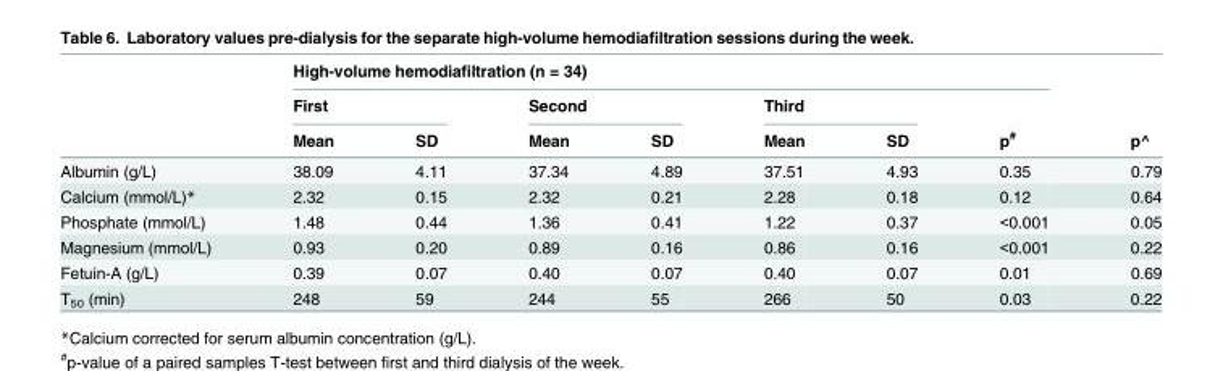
<table><thead><tr><td rowspan="3"></td><td colspan="7">High-volume hemodiafiltration (n = 34)</td><td rowspan="3">p^</td></tr><tr><td colspan="2">First</td><td colspan="2">Second</td><td colspan="2">Third</td><td rowspan="2">p<sup>#</sup></td></tr><tr><td>Mean</td><td>SD</td><td>Mean</td><td>SD</td><td>Mean</td><td>SD</td></tr></thead><tbody><tr><td>Albumin (g/L)</td><td>38.09</td><td>4.11</td><td>37.34</td><td>4.89</td><td>37.51</td><td>4.93</td><td>0.35</td><td>0.79</td></tr><tr><td>Calcium (mmol/L)*</td><td>2.32</td><td>0.15</td><td>2.32</td><td>0.21</td><td>2.28</td><td>0.18</td><td>0.12</td><td>0.64</td></tr><tr><td>Phosphate (mmol/L)</td><td>1.48</td><td>0.44</td><td>1.36</td><td>0.41</td><td>1.22</td><td>0.37</td><td>&lt;0.001</td><td>0.05</td></tr><tr><td>Magnesium (mmol/L)</td><td>0.93</td><td>0.20</td><td>0.89</td><td>0.16</td><td>0.86</td><td>0.16</td><td>&lt;0.001</td><td>0.22</td></tr><tr><td>Fetuin-A (g/L)</td><td>0.39</td><td>0.07</td><td>0.40</td><td>0.07</td><td>0.40</td><td>0.07</td><td>0.01</td><td>0.69</td></tr><tr><td>T<sub>50</sub> (min)</td><td>248</td><td>59</td><td>244</td><td>55</td><td>266</td><td>50</td><td>0.03</td><td>0.22</td></tr></tbody></table>